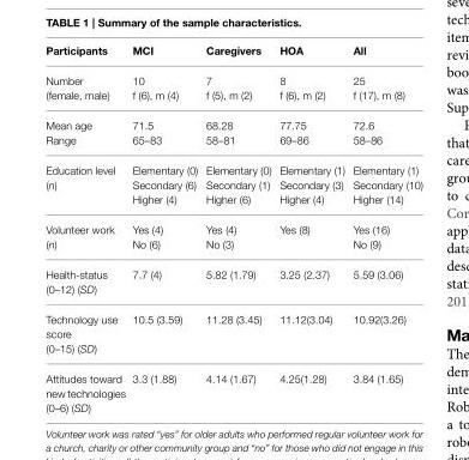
<table><thead><tr><td>Participants</td><td>MCI</td><td>Caregivers</td><td>HOA</td><td>All</td></tr></thead><tbody><tr><td>Number (female, male)</td><td>10 f (6), m (4)</td><td>7 f (5), m (2)</td><td>8 f (6), m (2)</td><td>25 f (17), m (8)</td></tr><tr><td>Mean age Range</td><td>71.5 65–83</td><td>68.28 58–81</td><td>77.75 69–86</td><td>72.6 58–86</td></tr><tr><td>Education level (n)</td><td>Elementary (0) Secondary (6) Higher (4)</td><td>Elementary (0) Secondary (1) Higher (6)</td><td>Elementary (1) Secondary (3) Higher (4)</td><td>Elementary (1) Secondary (10) Higher (14)</td></tr><tr><td>Volunteer work (n)</td><td>Yes (4) No (6)</td><td>Yes (4) No (3)</td><td>Yes (8)</td><td>Yes (16) No (9)</td></tr><tr><td>Health-status (0–12) (SD)</td><td>7.7 (4)</td><td>5.82 (1.79)</td><td>3.25 (2.37)</td><td>5.59 (3.06)</td></tr><tr><td>Technology use score (0–15) (SD)</td><td>10.5 (3.59)</td><td>11.28 (3.45)</td><td>11.12(3.04)</td><td>10.92(3.26)</td></tr><tr><td>Attitudes toward new technologies (0–6) (SD)</td><td>3.3 (1.88)</td><td>4.14 (1.67)</td><td>4.25(1.28)</td><td>3.84 (1.65)</td></tr></tbody></table>